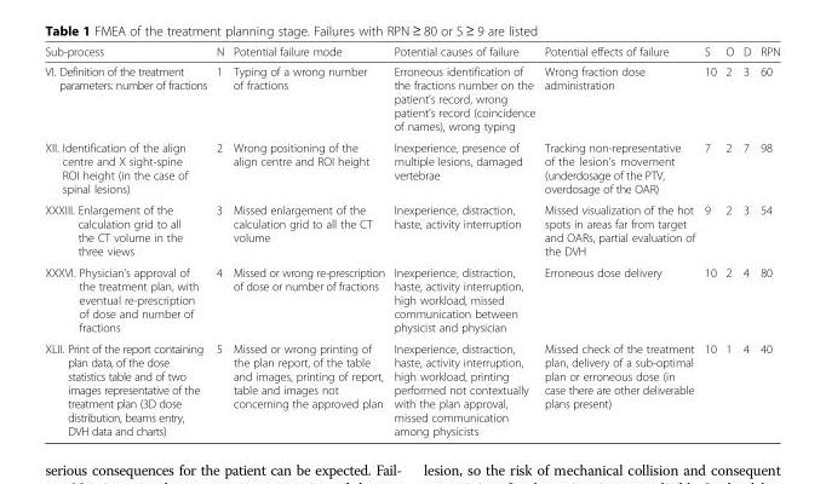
<table><thead><tr><td>Sub-process</td><td>N</td><td>Potential failure mode</td><td>Potential causes of failure</td><td>Potential effects of failure</td><td>S</td><td>O</td><td>D</td><td>RPN</td></tr></thead><tbody><tr><td>VI. Definition of the treatment parameters: number of fractions</td><td>1</td><td>Typing of a wrong number of fractions</td><td>Erroneous identification of the fractions number on the patient’s record, wrong patient’s record (coincidence of names), wrong typing</td><td>Wrong fraction dose administration</td><td>10</td><td>2</td><td>3</td><td>60</td></tr><tr><td>XII. Identification of the align centre and X sight-spine ROI height (in the case of spinal lesions)</td><td>2</td><td>Wrong positioning of the align centre and ROI height</td><td>Inexperience, presence of multiple lesions, damaged vertebrae</td><td>Tracking non-representative of the lesion’s movement (underdosage of the PTV, overdosage of the OAR)</td><td>7</td><td>2</td><td>7</td><td>98</td></tr><tr><td>XXXIII. Enlargement of the calculation grid to all the CT volume in the three views</td><td>3</td><td>Missed enlargement of the calculation grid to all the CT volume</td><td>Inexperience, distraction, haste, activity interruption</td><td>Missed visualization of the hot spots in areas far from target and OARs, partial evaluation of the DVH</td><td>9</td><td>2</td><td>3</td><td>54</td></tr><tr><td>XXXVI. Physician’s approval of the treatment plan, with eventual re-prescription of dose and number of fractions</td><td>4</td><td>Missed or wrong re-prescription of dose or number of fractions</td><td>Inexperience, distraction, haste, activity interruption, high workload, missed communication between physicist and physician</td><td>Erroneous dose delivery</td><td>10</td><td>2</td><td>4</td><td>80</td></tr><tr><td>XLII. Print of the report containing plan data, of the dose statistics table and of two images representative of the treatment plan (3D dose distribution, beams entry, DVH data and charts)</td><td>5</td><td>Missed or wrong printing of the plan report, of the table and images, printing of report, table and images not concerning the approved plan</td><td>Inexperience, distraction, haste, activity interruption, high workload, printing performed not contextually with the plan approval, missed communication among physicists</td><td>Missed check of the treatment plan, delivery of a sub-optimal plan or erroneous dose (in case there are other deliverable plans present)</td><td>10</td><td>1</td><td>4</td><td>40</td></tr></tbody></table>